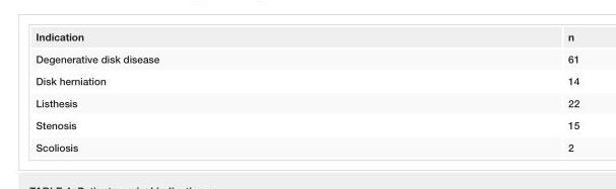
<table><tbody><tr><td>Indication</td><td>n</td></tr><tr><td>Degenerative disk disease</td><td>61</td></tr><tr><td>Disk herniation</td><td>14</td></tr><tr><td>Listhesis</td><td>22</td></tr><tr><td>Stenosis</td><td>15</td></tr><tr><td>Scoliosis</td><td>2</td></tr></tbody></table>